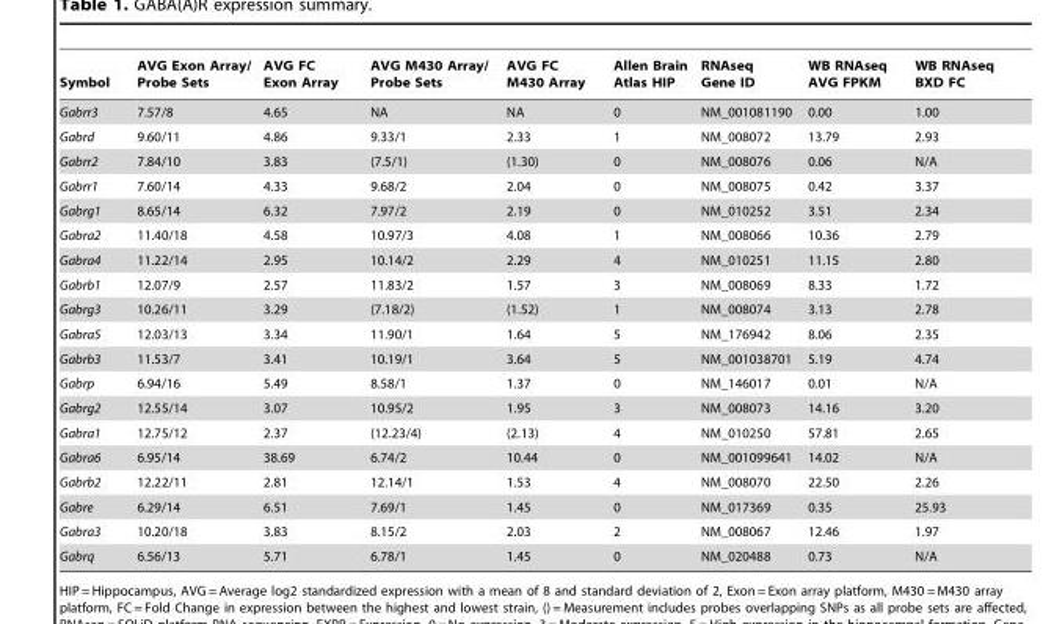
<table><thead><tr><td>Symbol</td><td>AVG Exon Array/ Probe Sets</td><td>AVG FC Exon Array</td><td>AVG M430 Array/ Probe Sets</td><td>AVG FC M430 Array</td><td>Allen Brain Atlas HIP</td><td>RNAseq Gene ID</td><td>WB RNAseq AVG FPKM</td><td>WB RNAseq BXD FC</td></tr></thead><tbody><tr><td>Gabrr3</td><td>7.57/8</td><td>4.65</td><td>NA</td><td>NA</td><td>0</td><td>NM_001081190</td><td>0.00</td><td>1.00</td></tr><tr><td>Gabrd</td><td>9.60/11</td><td>4.86</td><td>9.33/1</td><td>2.33</td><td>1</td><td>NM_008072</td><td>13.79</td><td>2.93</td></tr><tr><td>Gabrr2</td><td>7.84/10</td><td>3.83</td><td>(7.5/1)</td><td>(1.30)</td><td>0</td><td>NM_008076</td><td>0.06</td><td>N/A</td></tr><tr><td>Gabrr1</td><td>7.60/14</td><td>4.33</td><td>9.68/2</td><td>2.04</td><td>0</td><td>NM_008075</td><td>0.42</td><td>3.37</td></tr><tr><td>Gabrg1</td><td>8.65/14</td><td>6.32</td><td>7.97/2</td><td>2.19</td><td>0</td><td>NM_010252</td><td>3.51</td><td>2.34</td></tr><tr><td>Gabra2</td><td>11.40/18</td><td>4.58</td><td>10.97/3</td><td>4.08</td><td>1</td><td>NM_008066</td><td>10.36</td><td>2.79</td></tr><tr><td>Gabra4</td><td>11.22/14</td><td>2.95</td><td>10.14/2</td><td>2.29</td><td>4</td><td>NM_010251</td><td>11.15</td><td>2.80</td></tr><tr><td>Gabrb1</td><td>12.07/9</td><td>2.57</td><td>11.83/2</td><td>1.57</td><td>3</td><td>NM_008069</td><td>8.33</td><td>1.72</td></tr><tr><td>Gabrg3</td><td>10.26/11</td><td>3.29</td><td>(7.18/2)</td><td>(1.52)</td><td>1</td><td>NM_008074</td><td>3.13</td><td>2.78</td></tr><tr><td>Gabra5</td><td>12.03/13</td><td>3.34</td><td>11.90/1</td><td>1.64</td><td>5</td><td>NM_176942</td><td>8.06</td><td>2.35</td></tr><tr><td>Gabrb3</td><td>11.53/7</td><td>3.41</td><td>10.19/1</td><td>3.64</td><td>5</td><td>NM_001038701</td><td>5.19</td><td>4.74</td></tr><tr><td>Gabrp</td><td>6.94/16</td><td>5.49</td><td>8.58/1</td><td>1.37</td><td>0</td><td>NM_146017</td><td>0.01</td><td>N/A</td></tr><tr><td>Gabrg2</td><td>12.55/14</td><td>3.07</td><td>10.95/2</td><td>1.95</td><td>3</td><td>NM_008073</td><td>14.16</td><td>3.20</td></tr><tr><td>Gabra1</td><td>12.75/12</td><td>2.37</td><td>(12.23/4)</td><td>(2.13)</td><td>4</td><td>NM_010250</td><td>57.81</td><td>2.65</td></tr><tr><td>Gabra6</td><td>6.95/14</td><td>38.69</td><td>6.74/2</td><td>10.44</td><td>0</td><td>NM_001099641</td><td>14.02</td><td>N/A</td></tr><tr><td>Gabrb2</td><td>12.22/11</td><td>2.81</td><td>12.14/1</td><td>1.53</td><td>4</td><td>NM_008070</td><td>22.50</td><td>2.26</td></tr><tr><td>Gabre</td><td>6.29/14</td><td>6.51</td><td>7.69/1</td><td>1.45</td><td>0</td><td>NM_017369</td><td>0.35</td><td>25.93</td></tr><tr><td>Gabra3</td><td>10.20/18</td><td>3.83</td><td>8.15/2</td><td>2.03</td><td>2</td><td>NM_008067</td><td>12.46</td><td>1.97</td></tr><tr><td>Gabrq</td><td>6.56/13</td><td>5.71</td><td>6.78/1</td><td>1.45</td><td>0</td><td>NM_020488</td><td>0.73</td><td>N/A</td></tr></tbody></table>